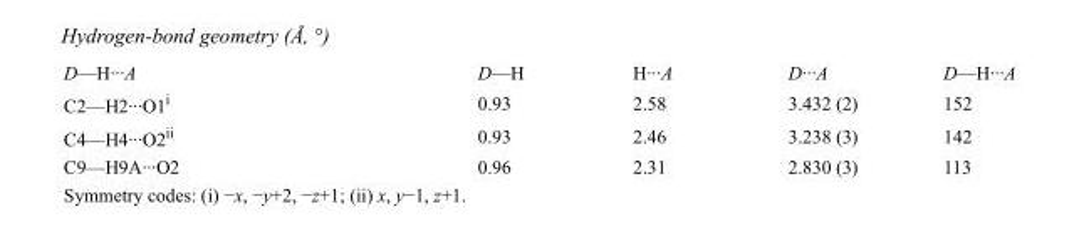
<table><tbody><tr><td>D—H···A</td><td>D—H</td><td>H···A</td><td>D···A</td><td>D—H···A</td></tr><tr><td>C2—H2···O1<sup>i</sup></td><td>0.93</td><td>2.58</td><td>3.432 (2)</td><td>152</td></tr><tr><td>C4—H4···O2<sup>ii</sup></td><td>0.93</td><td>2.46</td><td>3.238 (3)</td><td>142</td></tr><tr><td>C9—H9A···O2</td><td>0.96</td><td>2.31</td><td>2.830 (3)</td><td>113</td></tr></tbody></table>